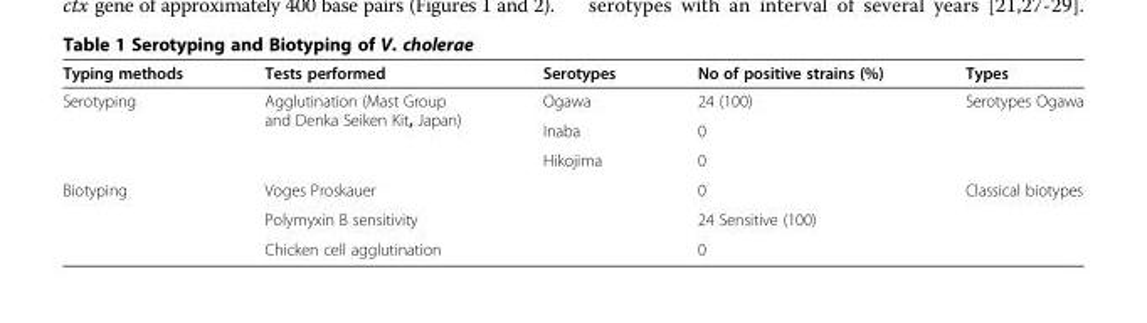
<table><thead><tr><td>Typing methods</td><td>Tests performed</td><td>Serotypes</td><td>No of positive strains (%)</td><td>Types</td></tr></thead><tbody><tr><td rowspan="3">Serotyping</td><td rowspan="3">Agglutination (Mast Group and Denka Seiken Kit, Japan)</td><td>Ogawa</td><td>24 (100)</td><td rowspan="3">Serotypes Ogawa</td></tr><tr><td>Inaba</td><td>0</td></tr><tr><td>Hikojima</td><td>0</td></tr><tr><td rowspan="3">Biotyping</td><td>Voges Proskauer</td><td></td><td>0</td><td rowspan="3">Classical biotypes</td></tr><tr><td>Polymyxin B sensitivity</td><td></td><td>24 Sensitive (100)</td></tr><tr><td>Chicken cell agglutination</td><td></td><td>0</td></tr></tbody></table>